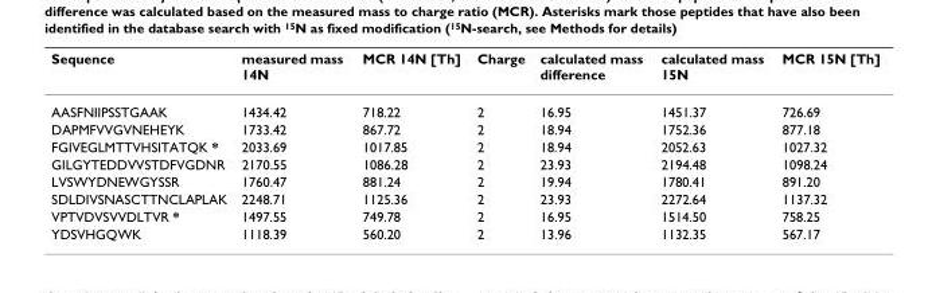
<table><thead><tr><td>Sequence</td><td>measured mass 14N</td><td>MCR 14N [Th]</td><td>Charge</td><td>calculated mass difference</td><td>calculated mass 15N</td><td>MCR 15N [Th]</td></tr></thead><tbody><tr><td>AASFNIIPSSTGAAK</td><td>1434.42</td><td>718.22</td><td>2</td><td>16.95</td><td>1451.37</td><td>726.69</td></tr><tr><td>DAPMFVVGVNEHEYK</td><td>1733.42</td><td>867.72</td><td>2</td><td>18.94</td><td>1752.36</td><td>877.18</td></tr><tr><td>FGIVEGLMTTVHSITATQK *</td><td>2033.69</td><td>1017.85</td><td>2</td><td>18.94</td><td>2052.63</td><td>1027.32</td></tr><tr><td>GILGYTEDDVVSTDFVGDNR</td><td>2170.55</td><td>1086.28</td><td>2</td><td>23.93</td><td>2194.48</td><td>1098.24</td></tr><tr><td>LVSWYDNEWGYSSR</td><td>1760.47</td><td>881.24</td><td>2</td><td>19.94</td><td>1780.41</td><td>891.20</td></tr><tr><td>SDLDIVSNASCTTNCLAPLAK</td><td>2248.71</td><td>1125.36</td><td>2</td><td>23.93</td><td>2272.64</td><td>1137.32</td></tr><tr><td>VPTVDVSVVDLTVR *</td><td>1497.55</td><td>749.78</td><td>2</td><td>16.95</td><td>1514.50</td><td>758.25</td></tr><tr><td>YDSVHGQWK</td><td>1118.39</td><td>560.20</td><td>2</td><td>13.96</td><td>1132.35</td><td>567.17</td></tr></tbody></table>